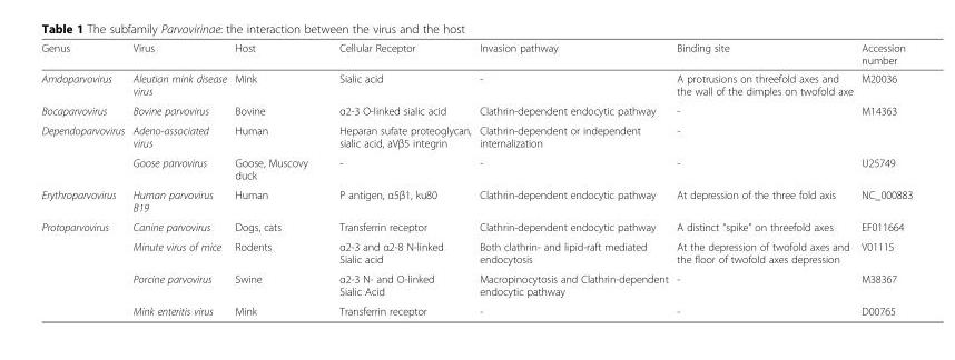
<table><thead><tr><td>Genus</td><td>Virus</td><td>Host</td><td>Cellular Receptor</td><td>Invasion pathway</td><td>Binding site</td><td>Accession number</td></tr></thead><tbody><tr><td>Amdoparvovirus</td><td>Aleutian mink disease virus</td><td>Mink</td><td>Sialic acid</td><td>-</td><td>A protrusions on threefold axes and the wall of the dimples on twofold axe</td><td>M20036</td></tr><tr><td>Bocaparvovirus</td><td>Bovine parvovirus</td><td>Bovine</td><td>α2-3 O-linked sialic acid</td><td>Clathrin-dependent endocytic pathway</td><td>-</td><td>M14363</td></tr><tr><td rowspan="2">Dependoparvovirus</td><td>Adeno-associated virus</td><td>Human</td><td>Heparan sufate proteoglycan, sialic acid, aVβ5 integrin</td><td>Clathrin-dependent or independent internalization</td><td>-</td><td></td></tr><tr><td>Goose parvovirus</td><td>Goose, Muscovy duck</td><td>-</td><td>-</td><td>-</td><td>U25749</td></tr><tr><td>Erythroparvovirus</td><td>Human parvovirus B19</td><td>Human</td><td>P antigen, α5β1, ku80</td><td>Clathrin-dependent endocytic pathway</td><td>At depression of the three fold axis</td><td>NC_000883</td></tr><tr><td rowspan="4">Protoparvovirus</td><td>Canine parvovirus</td><td>Dogs, cats</td><td>Transferrin receptor</td><td>Clathrin-dependent endocytic pathway</td><td>A distinct “spike” on threefold axes</td><td>EF011664</td></tr><tr><td>Minute virus of mice</td><td>Rodents</td><td>α2-3 and α2-8 N-linked Sialic acid</td><td>Both clathrin- and lipid-raft mediated endocytosis</td><td>At the depression of twofold axes and the floor of twofold axes depression</td><td>V01115</td></tr><tr><td>Porcine parvovirus</td><td>Swine</td><td>α2-3 N- and O-linked Sialic Acid</td><td>Macropinocytosis and Clathrin-dependent endocytic pathway</td><td>-</td><td>M38367</td></tr><tr><td>Mink enteritis virus</td><td>Mink</td><td>Transferrin receptor</td><td>-</td><td>-</td><td>D00765</td></tr></tbody></table>